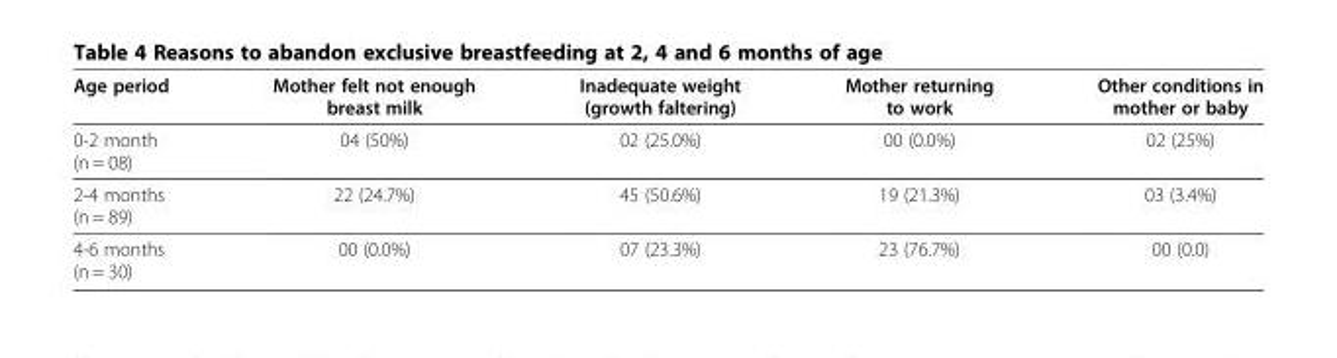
<table><thead><tr><td>Age period</td><td>Mother felt not enough breast milk</td><td>Inadequate weight (growth faltering)</td><td>Mother returning to work</td><td>Other conditions in mother or baby</td></tr></thead><tbody><tr><td>0-2 month (n = 08)</td><td>04 (50%)</td><td>02 (25.0%)</td><td>00 (0.0%)</td><td>02 (25%)</td></tr><tr><td>2-4 months (n = 89)</td><td>22 (24.7%)</td><td>45 (50.6%)</td><td>19 (21.3%)</td><td>03 (3.4%)</td></tr><tr><td>4-6 months (n = 30)</td><td>00 (0.0%)</td><td>07 (23.3%)</td><td>23 (76.7%)</td><td>00 (0.0)</td></tr></tbody></table>